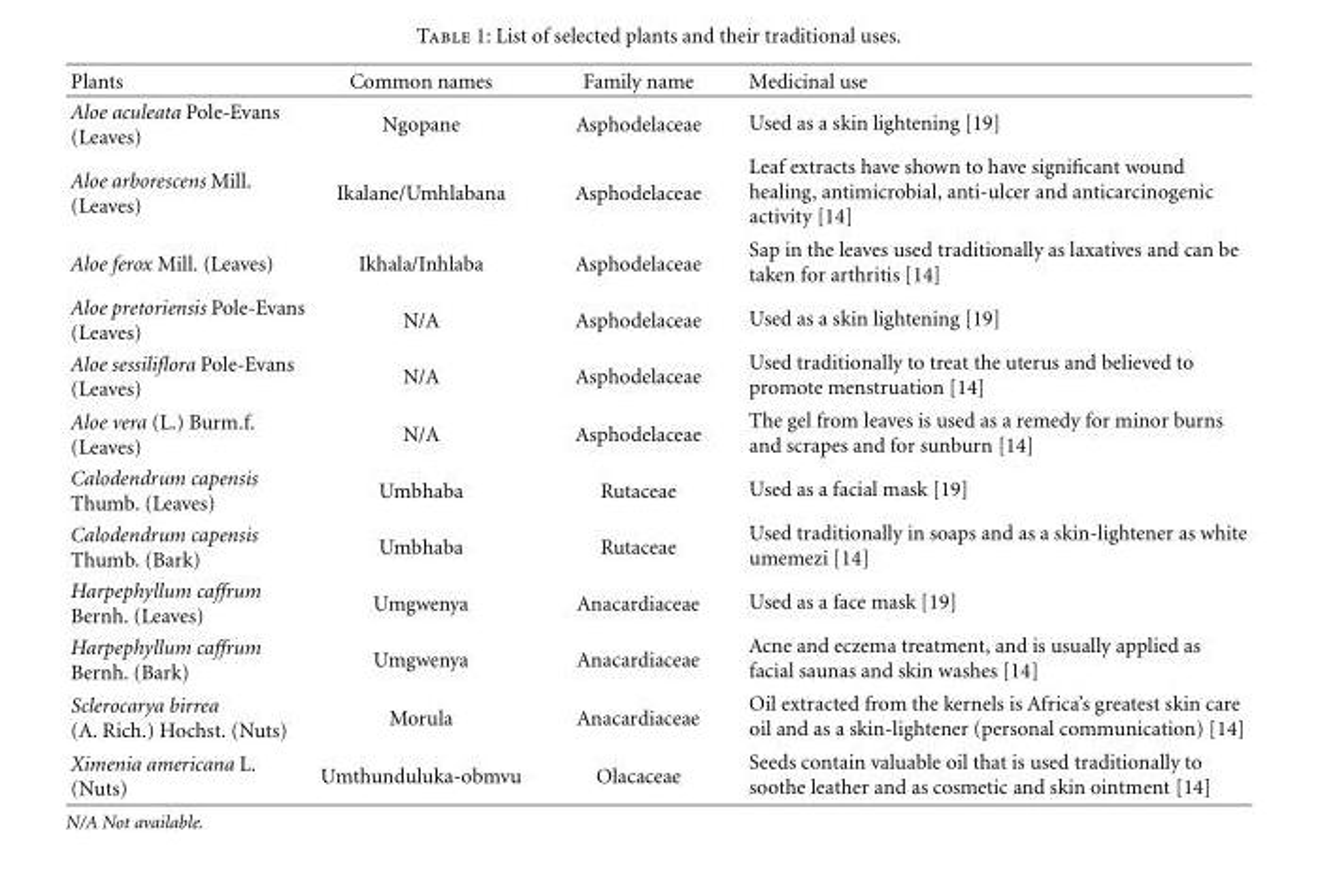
<table><thead><tr><td>Plants</td><td>Common names</td><td>Family name</td><td>Medicinal use</td></tr></thead><tbody><tr><td>Aloe aculeata Pole-Evans (Leaves)</td><td>Ngopane</td><td>Asphodelaceae</td><td>Used as a skin lightening [19]</td></tr><tr><td>Aloe arborescens Mill. (Leaves)</td><td>Ikalane/Umhlabana</td><td>Asphodelaceae</td><td>Leaf extracts have shown to have significant wound healing, antimicrobial, anti-ulcer and anticarcinogenic activity [14]</td></tr><tr><td>Aloe ferox Mill. (Leaves)</td><td>Ikhala/Inhlaba</td><td>Asphodelaceae</td><td>Sap in the leaves used traditionally as laxatives and can be taken for arthritis [14]</td></tr><tr><td>Aloe pretoriensis Pole-Evans (Leaves)</td><td>N/A</td><td>Asphodelaceae</td><td>Used as a skin lightening [19]</td></tr><tr><td>Aloe sessiliflora Pole-Evans (Leaves)</td><td>N/A</td><td>Asphodelaceae</td><td>Used traditionally to treat the uterus and believed to promote menstruation [14]</td></tr><tr><td>Aloe vera (L.) Burm.f. (Leaves)</td><td>N/A</td><td>Asphodelaceae</td><td>The gel from leaves is used as a remedy for minor burns and scrapes and for sunburn [14]</td></tr><tr><td>Calodendrum capensis Thumb. (Leaves)</td><td>Umbhaba</td><td>Rutaceae</td><td>Used as a facial mask [19]</td></tr><tr><td>Calodendrum capensis Thumb. (Bark)</td><td>Umbhaba</td><td>Rutaceae</td><td>Used traditionally in soaps and as a skin-lightener as white umemezi [14]</td></tr><tr><td>Harpephyllum caffrum Bernh. (Leaves)</td><td>Umgwenya</td><td>Anacardiaceae</td><td>Used as a face mask [19]</td></tr><tr><td>Harpephyllum caffrum Bernh. (Bark)</td><td>Umgwenya</td><td>Anacardiaceae</td><td>Acne and eczema treatment, and is usually applied as facial saunas and skin washes [14]</td></tr><tr><td>Sclerocarya birrea (A. Rich.) Hochst. (Nuts)</td><td>Morula</td><td>Anacardiaceae</td><td>Oil extracted from the kernels is Africa’s greatest skin care oil and as a skin-lightener (personal communication) [14]</td></tr><tr><td>Ximenia americana L. (Nuts)</td><td>Umthunduluka-obmvu</td><td>Olacaceae</td><td>Seeds contain valuable oil that is used traditionally to soothe leather and as cosmetic and skin ointment [14]</td></tr></tbody></table>